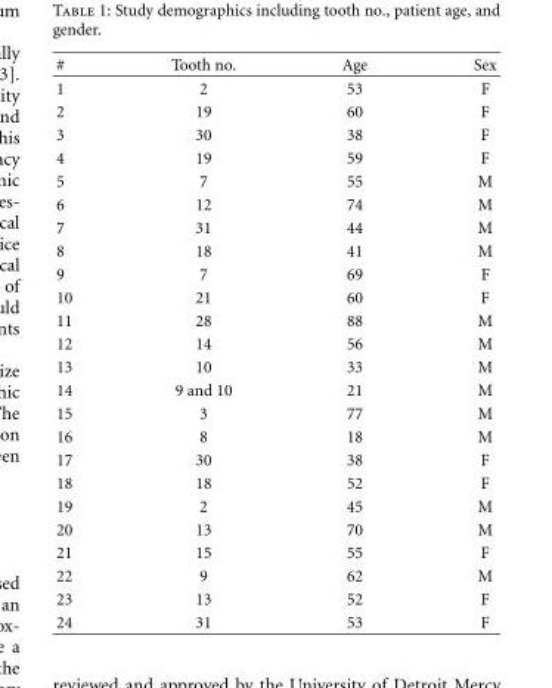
<table><thead><tr><td>#</td><td>Tooth no.</td><td>Age</td><td>Sex</td></tr></thead><tbody><tr><td>1</td><td>2</td><td>53</td><td>F</td></tr><tr><td>2</td><td>19</td><td>60</td><td>F</td></tr><tr><td>3</td><td>30</td><td>38</td><td>F</td></tr><tr><td>4</td><td>19</td><td>59</td><td>F</td></tr><tr><td>5</td><td>7</td><td>55</td><td>M</td></tr><tr><td>6</td><td>12</td><td>74</td><td>M</td></tr><tr><td>7</td><td>31</td><td>44</td><td>M</td></tr><tr><td>8</td><td>18</td><td>41</td><td>M</td></tr><tr><td>9</td><td>7</td><td>69</td><td>F</td></tr><tr><td>10</td><td>21</td><td>60</td><td>F</td></tr><tr><td>11</td><td>28</td><td>88</td><td>M</td></tr><tr><td>12</td><td>14</td><td>56</td><td>M</td></tr><tr><td>13</td><td>10</td><td>33</td><td>M</td></tr><tr><td>14</td><td>9 and 10</td><td>21</td><td>M</td></tr><tr><td>15</td><td>3</td><td>77</td><td>M</td></tr><tr><td>16</td><td>8</td><td>18</td><td>M</td></tr><tr><td>17</td><td>30</td><td>38</td><td>F</td></tr><tr><td>18</td><td>18</td><td>52</td><td>F</td></tr><tr><td>19</td><td>2</td><td>45</td><td>M</td></tr><tr><td>20</td><td>13</td><td>70</td><td>M</td></tr><tr><td>21</td><td>15</td><td>55</td><td>F</td></tr><tr><td>22</td><td>9</td><td>62</td><td>M</td></tr><tr><td>23</td><td>13</td><td>52</td><td>F</td></tr><tr><td>24</td><td>31</td><td>53</td><td>F</td></tr></tbody></table>